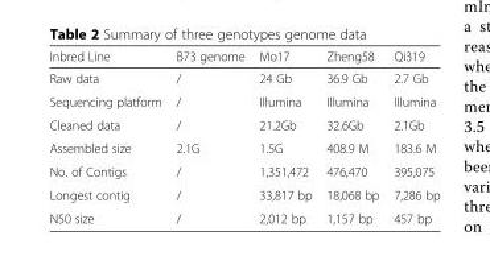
<table><thead><tr><td>Inbred Line</td><td>B73 genome</td><td>Mo17</td><td>Zheng58</td><td>Qi319</td></tr></thead><tbody><tr><td>Raw data</td><td>/</td><td>24 Gb</td><td>36.9 Gb</td><td>2.7 Gb</td></tr><tr><td>Sequencing platform</td><td>/</td><td>Illumina</td><td>Illumina</td><td>Illumina</td></tr><tr><td>Cleaned data</td><td>/</td><td>21.2Gb</td><td>32.6Gb</td><td>2.1Gb</td></tr><tr><td>Assembled size</td><td>2.1G</td><td>1.5G</td><td>408.9 M</td><td>183.6 M</td></tr><tr><td>No. of Contigs</td><td>/</td><td>1,351,472</td><td>476,470</td><td>395,075</td></tr><tr><td>Longest contig</td><td>/</td><td>33,817 bp</td><td>18,068 bp</td><td>7,286 bp</td></tr><tr><td>N50 size</td><td>/</td><td>2,012 bp</td><td>1,157 bp</td><td>457 bp</td></tr></tbody></table>